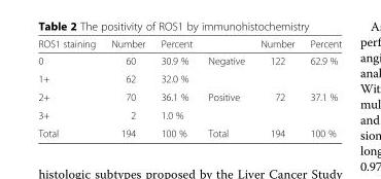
<table><thead><tr><td>ROS1 staining</td><td>Number</td><td>Percent</td><td></td><td>Number</td><td>Percent</td></tr></thead><tbody><tr><td>0</td><td>60</td><td>30.9 %</td><td rowspan="2">Negative</td><td rowspan="2">122</td><td rowspan="2">62.9 %</td></tr><tr><td>1+</td><td>62</td><td>32.0 %</td></tr><tr><td>2+</td><td>70</td><td>36.1 %</td><td rowspan="2">Positive</td><td rowspan="2">72</td><td rowspan="2">37.1 %</td></tr><tr><td>3+</td><td>2</td><td>1.0 %</td></tr><tr><td>Total</td><td>194</td><td>100 %</td><td>Total</td><td>194</td><td>100 %</td></tr></tbody></table>